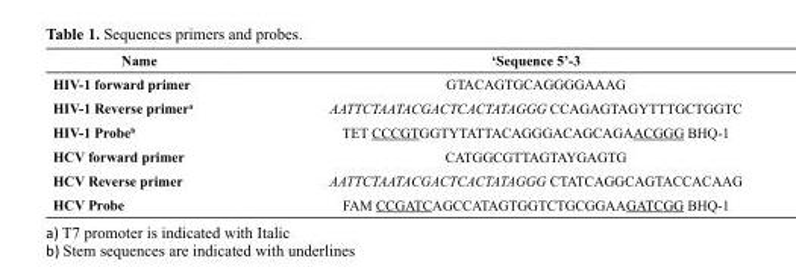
<table><thead><tr><td>Name</td><td>’Sequence 5’-3</td></tr></thead><tbody><tr><td>HIV-1 forward primer</td><td>GTACAGTGCAGGGGAAAG</td></tr><tr><td>HIV-1 Reverse primer<sup>a</sup></td><td>AATTCTAATACGACTCACTATAGGG CCAGAGTAGYTTTGCTGGTC</td></tr><tr><td>HIV-1 Probe<sup>b</sup></td><td>TET CCCGTGGTYTATTACAGGGACAGCAGAACGGG BHQ-1</td></tr><tr><td>HCV forward primer</td><td>CATGGCGTTAGTAYGAGTG</td></tr><tr><td>HCV Reverse primer</td><td>AATTCTAATACGACTCACTATAGGG CTATCAGGCAGTACCACAAG</td></tr><tr><td>HCV Probe</td><td>FAM CCGATCAGCCATAGTGGTCTGCGGAAGATCGG BHQ-1</td></tr></tbody></table>